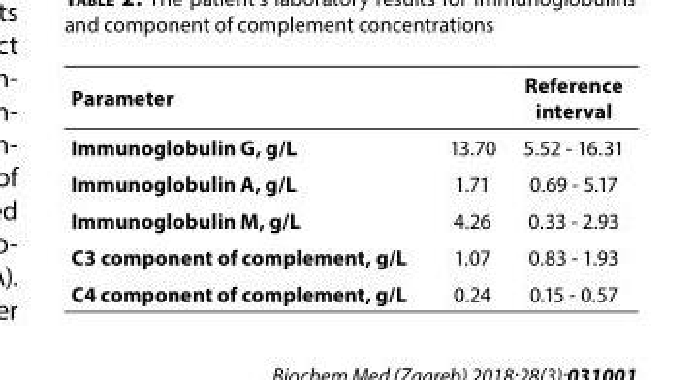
<table><thead><tr><td>Parameter</td><td></td><td>Reference interval</td></tr></thead><tbody><tr><td>Immunoglobulin G, g/L</td><td>13.70</td><td>5.52 - 16.31</td></tr><tr><td>Immunoglobulin A, g/L</td><td>1.71</td><td>0.69 - 5.17</td></tr><tr><td>Immunoglobulin M, g/L</td><td>4.26</td><td>0.33 - 2.93</td></tr><tr><td>C3 component of complement, g/L</td><td>1.07</td><td>0.83 - 1.93</td></tr><tr><td>C4 component of complement, g/L</td><td>0.24</td><td>0.15 - 0.57</td></tr></tbody></table>